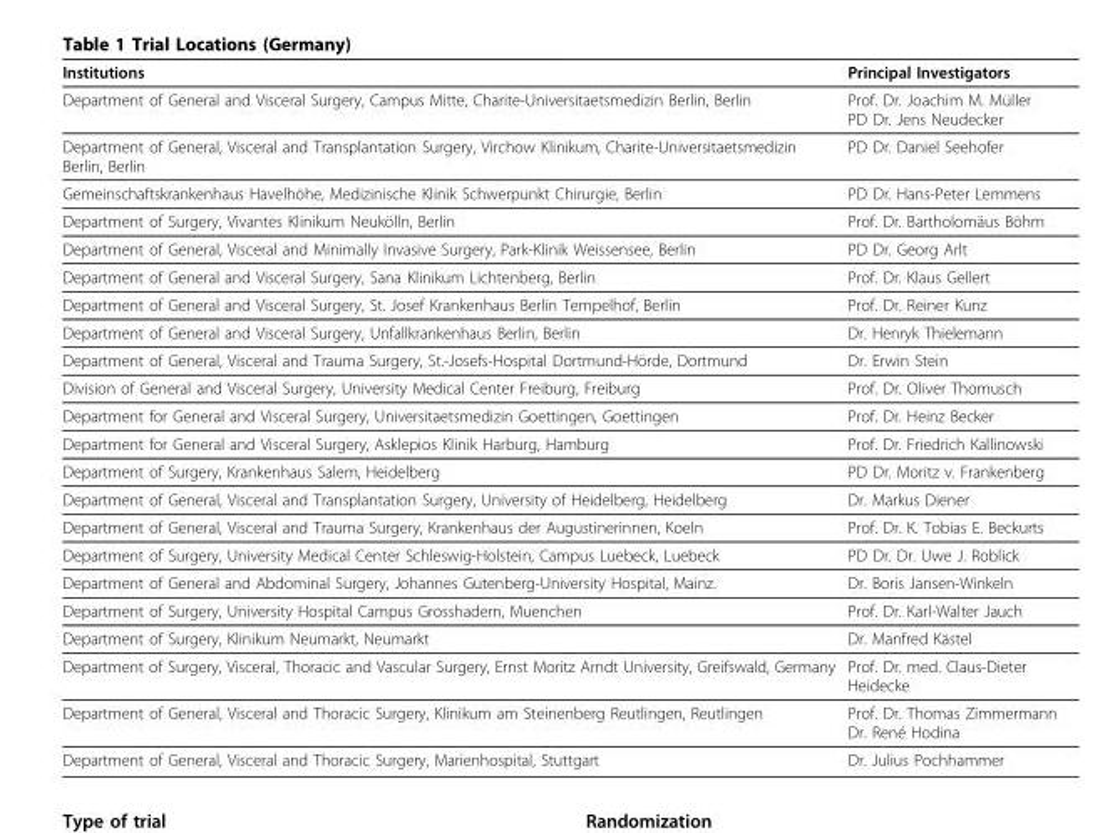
<table><thead><tr><td>Institutions</td><td>Principal Investigators</td></tr></thead><tbody><tr><td>Department of General and Visceral Surgery, Campus Mitte, Charite-Universitaetsmedizin Berlin, Berlin</td><td>Prof. Dr. Joachim M. Müller PD Dr. Jens Neudecker</td></tr><tr><td>Department of General, Visceral and Transplantation Surgery, Virchow Klinikum, Charite-Universitaetsmedizin Berlin, Berlin</td><td>PD Dr. Daniel Seehofer</td></tr><tr><td>Gemeinschaftskrankenhaus Havelhöhe, Medizinische Klinik Schwerpunkt Chirurgie, Berlin</td><td>PD Dr. Hans-Peter Lemmens</td></tr><tr><td>Department of Surgery, Vivantes Klinikum Neukölln, Berlin</td><td>Prof. Dr. Bartholomäus Böhm</td></tr><tr><td>Department of General, Visceral and Minimally Invasive Surgery, Park-Klinik Weissensee, Berlin</td><td>PD Dr. Georg Arlt</td></tr><tr><td>Department of General and Visceral Surgery, Sana Klinikum Lichtenberg, Berlin</td><td>Prof. Dr. Klaus Gellert</td></tr><tr><td>Department of General and Visceral Surgery, St. Josef Krankenhaus Berlin Tempelhof, Berlin</td><td>Prof. Dr. Reiner Kunz</td></tr><tr><td>Department of General and Visceral Surgery, Unfallkrankenhaus Berlin, Berlin</td><td>Dr. Henryk Thielemann</td></tr><tr><td>Department of General, Visceral and Trauma Surgery, St.-Josefs-Hospital Dortmund-Hörde, Dortmund</td><td>Dr. Erwin Stein</td></tr><tr><td>Division of General and Visceral Surgery, University Medical Center Freiburg, Freiburg</td><td>Prof. Dr. Oliver Thomusch</td></tr><tr><td>Department for General and Visceral Surgery, Universitaetsmedizin Goettingen, Goettingen</td><td>Prof. Dr. Heinz Becker</td></tr><tr><td>Department for General and Visceral Surgery, Asklepios Klinik Harburg, Hamburg</td><td>Prof. Dr. Friedrich Kallinowski</td></tr><tr><td>Department of Surgery, Krankenhaus Salem, Heidelberg</td><td>PD Dr. Moritz v. Frankenberg</td></tr><tr><td>Department of General, Visceral and Transplantation Surgery, University of Heidelberg, Heidelberg</td><td>Dr. Markus Diener</td></tr><tr><td>Department of General, Visceral and Trauma Surgery, Krankenhaus der Augustinerinnen, Koeln</td><td>Prof. Dr. K. Tobias E. Beckurts</td></tr><tr><td>Department of Surgery, University Medical Center Schleswig-Holstein, Campus Luebeck, Luebeck</td><td>PD Dr. Dr. Uwe J. Roblick</td></tr><tr><td>Department of General and Abdominal Surgery, Johannes Gutenberg-University Hospital, Mainz.</td><td>Dr. Boris Jansen-Winkeln</td></tr><tr><td>Department of Surgery, University Hospital Campus Grosshadern, Muenchen</td><td>Prof. Dr. Karl-Walter Jauch</td></tr><tr><td>Department of Surgery, Klinikum Neumarkt, Neumarkt</td><td>Dr. Manfred Kästel</td></tr><tr><td>Department of Surgery, Visceral, Thoracic and Vascular Surgery, Ernst Moritz Arndt University, Greifswald, Germany</td><td>Prof. Dr. med. Claus-Dieter Heidecke</td></tr><tr><td>Department of General, Visceral and Thoracic Surgery, Klinikum am Steinenberg Reutlingen, Reutlingen</td><td>Prof. Dr. Thomas Zimmermann Dr. René Hodina</td></tr><tr><td>Department of General, Visceral and Thoracic Surgery, Marienhospital, Stuttgart</td><td>Dr. Julius Pochhammer</td></tr></tbody></table>